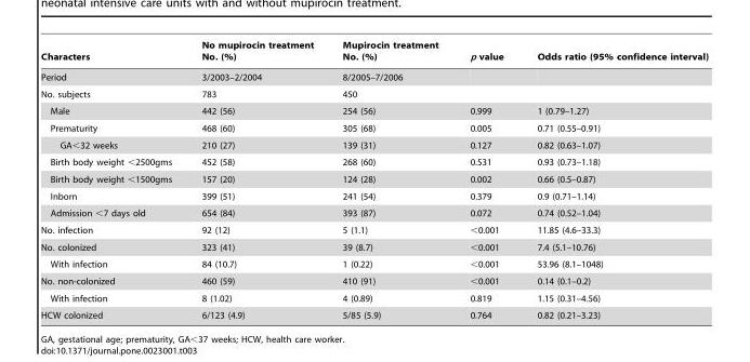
<table><thead><tr><td>Characters</td><td>No mupirocin treatment No. (%)</td><td>Mupirocin treatment No. (%)</td><td>p value</td><td>Odds ratio (95% confidence interval)</td></tr></thead><tbody><tr><td>Period</td><td>3/2003–2/2004</td><td>8/2005–7/2006</td><td></td><td></td></tr><tr><td>No. subjects</td><td>783</td><td>450</td><td></td><td></td></tr><tr><td>Male</td><td>442 (56)</td><td>254 (56)</td><td>0.999</td><td>1 (0.79–1.27)</td></tr><tr><td>Prematurity</td><td>468 (60)</td><td>305 (68)</td><td>0.005</td><td>0.71 (0.55–0.91)</td></tr><tr><td>GA&lt;32 weeks</td><td>210 (27)</td><td>139 (31)</td><td>0.127</td><td>0.82 (0.63–1.07)</td></tr><tr><td>Birth body weight &lt;2500gms</td><td>452 (58)</td><td>268 (60)</td><td>0.531</td><td>0.93 (0.73–1.18)</td></tr><tr><td>Birth body weight &lt;1500gms</td><td>157 (20)</td><td>124 (28)</td><td>0.002</td><td>0.66 (0.5–0.87)</td></tr><tr><td>Inborn</td><td>399 (51)</td><td>241 (54)</td><td>0.379</td><td>0.9 (0.71–1.14)</td></tr><tr><td>Admission &lt;7 days old</td><td>654 (84)</td><td>393 (87)</td><td>0.072</td><td>0.74 (0.52–1.04)</td></tr><tr><td>No. infection</td><td>92 (12)</td><td>5 (1.1)</td><td>&lt;0.001</td><td>11.85 (4.6–33.3)</td></tr><tr><td>No. colonized</td><td>323 (41)</td><td>39 (8.7)</td><td>&lt;0.001</td><td>7.4 (5.1–10.76)</td></tr><tr><td>With infection</td><td>84 (10.7)</td><td>1 (0.22)</td><td>&lt;0.001</td><td>53.96 (8.1–1048)</td></tr><tr><td>No. non-colonized</td><td>460 (59)</td><td>410 (91)</td><td>&lt;0.001</td><td>0.14 (0.1–0.2)</td></tr><tr><td>With infection</td><td>8 (1.02)</td><td>4 (0.89)</td><td>0.819</td><td>1.15 (0.31–4.56)</td></tr><tr><td>HCW colonized</td><td>6/123 (4.9)</td><td>5/85 (5.9)</td><td>0.764</td><td>0.82 (0.21–3.23)</td></tr></tbody></table>